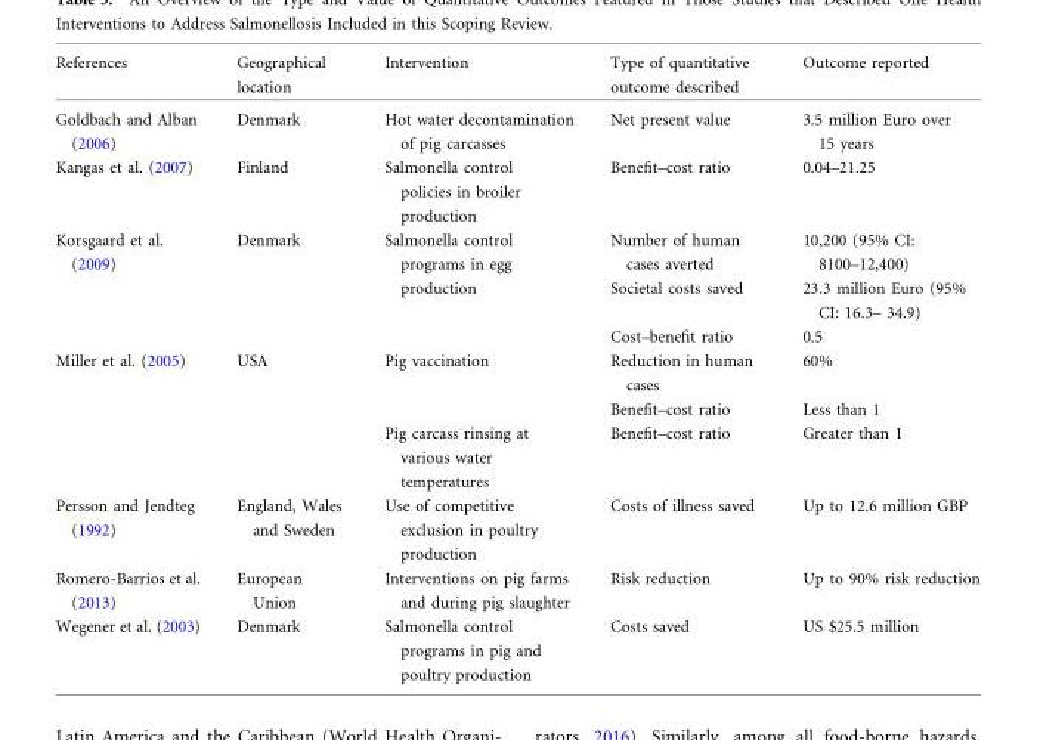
<table><thead><tr><td>References</td><td>Geographical location</td><td>Intervention</td><td>Type of quantitative outcome described</td><td>Outcome reported</td></tr></thead><tbody><tr><td>Goldbach and Alban (2006)</td><td>Denmark</td><td>Hot water decontamination of pig carcasses</td><td>Net present value</td><td>3.5 million Euro over 15 years</td></tr><tr><td>Kangas et al. (2007)</td><td>Finland</td><td>Salmonella control policies in broiler production</td><td>Benefit–cost ratio</td><td>0.04–21.25</td></tr><tr><td rowspan="3">Korsgaard et al. (2009)</td><td rowspan="3">Denmark</td><td rowspan="3">Salmonella control programs in egg production</td><td>Number of human cases averted</td><td>10,200 (95% CI: 8100–12,400)</td></tr><tr><td>Societal costs saved</td><td>23.3 million Euro (95% CI: 16.3– 34.9)</td></tr><tr><td>Cost–benefit ratio</td><td>0.5</td></tr><tr><td rowspan="3">Miller et al. (2005)</td><td rowspan="3">USA</td><td rowspan="2">Pig vaccination</td><td>Reduction in human cases</td><td>60%</td></tr><tr><td>Benefit–cost ratio</td><td>Less than 1</td></tr><tr><td>Pig carcass rinsing at various water temperatures</td><td>Benefit–cost ratio</td><td>Greater than 1</td></tr><tr><td>Persson and Jendteg (1992)</td><td>England, Wales and Sweden</td><td>Use of competitive exclusion in poultry production</td><td>Costs of illness saved</td><td>Up to 12.6 million GBP</td></tr><tr><td>Romero-Barrios et al. (2013)</td><td>European Union</td><td>Interventions on pig farms and during pig slaughter</td><td>Risk reduction</td><td>Up to 90% risk reduction</td></tr><tr><td>Wegener et al. (2003)</td><td>Denmark</td><td>Salmonella control programs in pig and poultry production</td><td>Costs saved</td><td>US $25.5 million</td></tr></tbody></table>